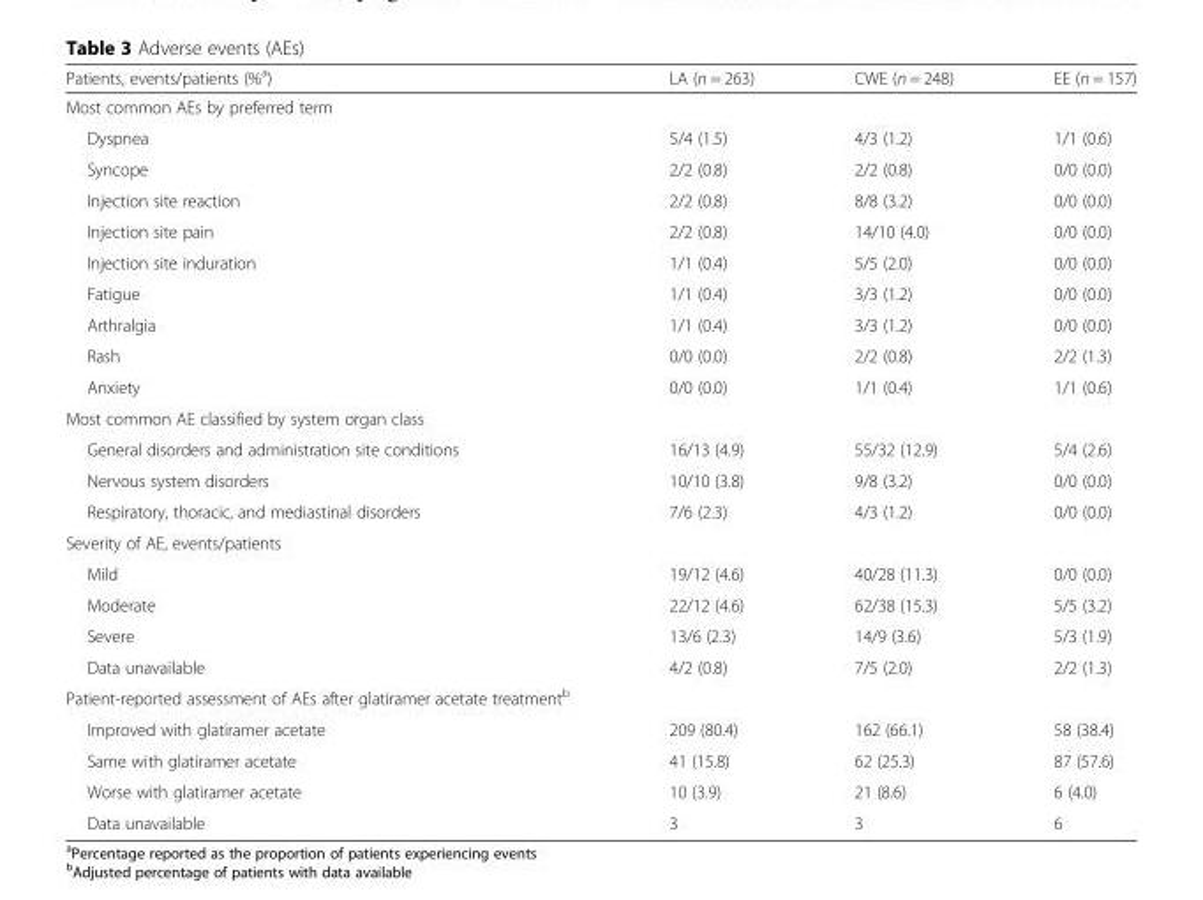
<table><thead><tr><td>Patients, events/patients (%<sup>a</sup>)</td><td>LA (n = 263)</td><td>CWE (n = 248)</td><td>EE (n = 157)</td></tr></thead><tbody><tr><td colspan="4">Most common AEs by preferred term</td></tr><tr><td>Dyspnea</td><td>5/4 (1.5)</td><td>4/3 (1.2)</td><td>1/1 (0.6)</td></tr><tr><td>Syncope</td><td>2/2 (0.8)</td><td>2/2 (0.8)</td><td>0/0 (0.0)</td></tr><tr><td>Injection site reaction</td><td>2/2 (0.8)</td><td>8/8 (3.2)</td><td>0/0 (0.0)</td></tr><tr><td>Injection site pain</td><td>2/2 (0.8)</td><td>14/10 (4.0)</td><td>0/0 (0.0)</td></tr><tr><td>Injection site induration</td><td>1/1 (0.4)</td><td>5/5 (2.0)</td><td>0/0 (0.0)</td></tr><tr><td>Fatigue</td><td>1/1 (0.4)</td><td>3/3 (1.2)</td><td>0/0 (0.0)</td></tr><tr><td>Arthralgia</td><td>1/1 (0.4)</td><td>3/3 (1.2)</td><td>0/0 (0.0)</td></tr><tr><td>Rash</td><td>0/0 (0.0)</td><td>2/2 (0.8)</td><td>2/2 (1.3)</td></tr><tr><td>Anxiety</td><td>0/0 (0.0)</td><td>1/1 (0.4)</td><td>1/1 (0.6)</td></tr><tr><td colspan="4">Most common AE classified by system organ class</td></tr><tr><td>General disorders and administration site conditions</td><td>16/13 (4.9)</td><td>55/32 (12.9)</td><td>5/4 (2.6)</td></tr><tr><td>Nervous system disorders</td><td>10/10 (3.8)</td><td>9/8 (3.2)</td><td>0/0 (0.0)</td></tr><tr><td>Respiratory, thoracic, and mediastinal disorders</td><td>7/6 (2.3)</td><td>4/3 (1.2)</td><td>0/0 (0.0)</td></tr><tr><td colspan="4">Severity of AE, events/patients</td></tr><tr><td>Mild</td><td>19/12 (4.6)</td><td>40/28 (11.3)</td><td>0/0 (0.0)</td></tr><tr><td>Moderate</td><td>22/12 (4.6)</td><td>62/38 (15.3)</td><td>5/5 (3.2)</td></tr><tr><td>Severe</td><td>13/6 (2.3)</td><td>14/9 (3.6)</td><td>5/3 (1.9)</td></tr><tr><td>Data unavailable</td><td>4/2 (0.8)</td><td>7/5 (2.0)</td><td>2/2 (1.3)</td></tr><tr><td colspan="4">Patient-reported assessment of AEs after glatiramer acetate treatment<sup>b</sup></td></tr><tr><td>Improved with glatiramer acetate</td><td>209 (80.4)</td><td>162 (66.1)</td><td>58 (38.4)</td></tr><tr><td>Same with glatiramer acetate</td><td>41 (15.8)</td><td>62 (25.3)</td><td>87 (57.6)</td></tr><tr><td>Worse with glatiramer acetate</td><td>10 (3.9)</td><td>21 (8.6)</td><td>6 (4.0)</td></tr><tr><td>Data unavailable</td><td>3</td><td>3</td><td>6</td></tr></tbody></table>